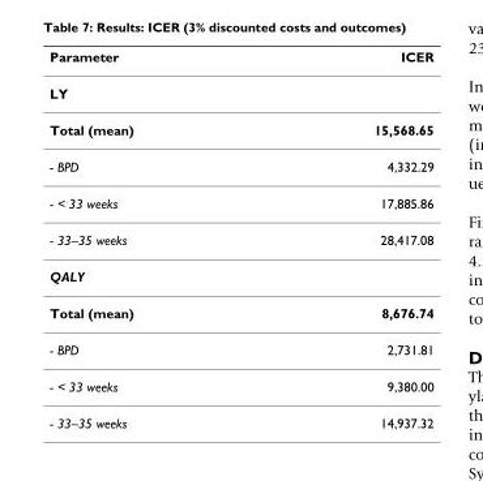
<table><thead><tr><td>Parameter</td><td>ICER</td></tr></thead><tbody><tr><td colspan="2">LY</td></tr><tr><td>Total (mean)</td><td>15,568.65</td></tr><tr><td>- BPD</td><td>4,332.29</td></tr><tr><td>- &lt; 33 weeks</td><td>17,885.86</td></tr><tr><td>- 33–35 weeks</td><td>28,417.08</td></tr><tr><td colspan="2">QALY</td></tr><tr><td>Total (mean)</td><td>8,676.74</td></tr><tr><td>- BPD</td><td>2,731.81</td></tr><tr><td>- &lt; 33 weeks</td><td>9,380.00</td></tr><tr><td>- 33–35 weeks</td><td>14,937.32</td></tr></tbody></table>